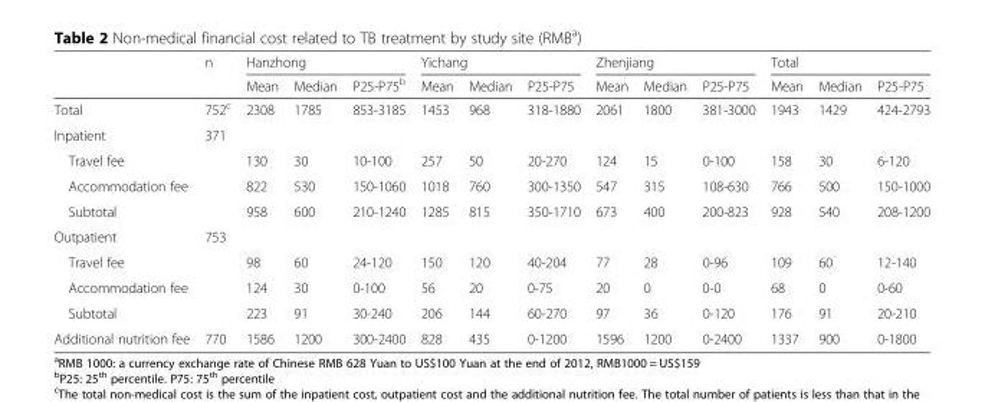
<table><thead><tr><td rowspan="2"></td><td rowspan="2">n</td><td colspan="3">Hanzhong</td><td colspan="3">Yichang</td><td colspan="3">Zhenjiang</td><td colspan="3">Total</td></tr><tr><td>Mean</td><td>Median</td><td>P25-P75<sup>b</sup></td><td>Mean</td><td>Median</td><td>P25-P75</td><td>Mean</td><td>Median</td><td>P25-P75</td><td>Mean</td><td>Median</td><td>P25-P75</td></tr></thead><tbody><tr><td>Total</td><td>752<sup>c</sup></td><td>2308</td><td>1785</td><td>853-3185</td><td>1453</td><td>968</td><td>318-1880</td><td>2061</td><td>1800</td><td>381-3000</td><td>1943</td><td>1429</td><td>424-2793</td></tr><tr><td>Inpatient</td><td>371</td><td></td><td></td><td></td><td></td><td></td><td></td><td></td><td></td><td></td><td></td><td></td><td></td></tr><tr><td>Travel fee</td><td></td><td>130</td><td>30</td><td>10-100</td><td>257</td><td>50</td><td>20-270</td><td>124</td><td>15</td><td>0-100</td><td>158</td><td>30</td><td>6-120</td></tr><tr><td>Accommodation fee</td><td></td><td>822</td><td>530</td><td>150-1060</td><td>1018</td><td>760</td><td>300-1350</td><td>547</td><td>315</td><td>108-630</td><td>766</td><td>500</td><td>150-1000</td></tr><tr><td>Subtotal</td><td></td><td>958</td><td>600</td><td>210-1240</td><td>1285</td><td>815</td><td>350-1710</td><td>673</td><td>400</td><td>200-823</td><td>928</td><td>540</td><td>208-1200</td></tr><tr><td>Outpatient</td><td>753</td><td></td><td></td><td></td><td></td><td></td><td></td><td></td><td></td><td></td><td></td><td></td><td></td></tr><tr><td>Travel fee</td><td></td><td>98</td><td>60</td><td>24-120</td><td>150</td><td>120</td><td>40-204</td><td>77</td><td>28</td><td>0-96</td><td>109</td><td>60</td><td>12-140</td></tr><tr><td>Accommodation fee</td><td></td><td>124</td><td>30</td><td>0-100</td><td>56</td><td>20</td><td>0-75</td><td>20</td><td>0</td><td>0-0</td><td>68</td><td>0</td><td>0-60</td></tr><tr><td>Subtotal</td><td></td><td>223</td><td>91</td><td>30-240</td><td>206</td><td>144</td><td>60-270</td><td>97</td><td>36</td><td>0-120</td><td>176</td><td>91</td><td>20-210</td></tr><tr><td>Additional nutrition fee</td><td>770</td><td>1586</td><td>1200</td><td>300-2400</td><td>828</td><td>435</td><td>0-1200</td><td>1596</td><td>1200</td><td>0-2400</td><td>1337</td><td>900</td><td>0-1800</td></tr></tbody></table>